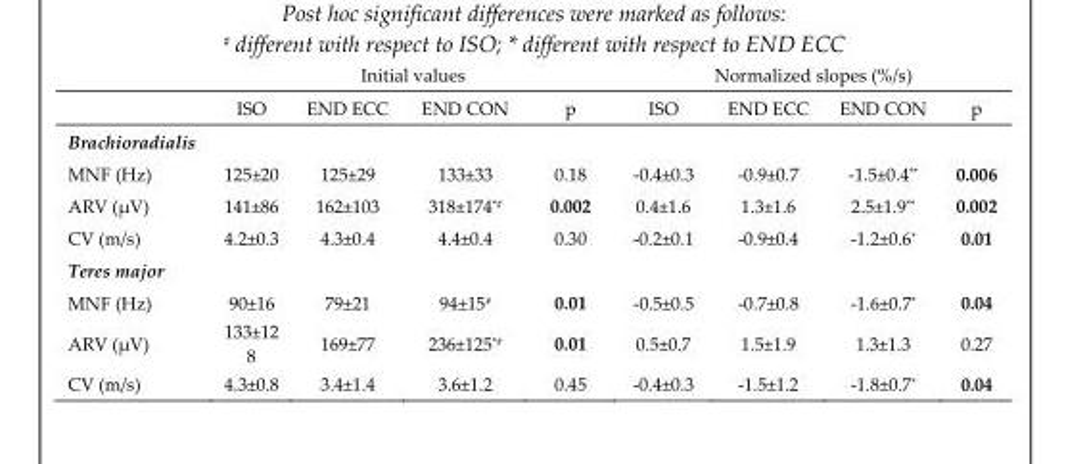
<table><thead><tr><td rowspan="2"></td><td colspan="4">Initial values</td><td colspan="4">Normalized slopes (%/s)</td></tr><tr><td>ISO</td><td>END ECC</td><td>END CON</td><td>p</td><td>ISO</td><td>END ECC</td><td>END CON</td><td>p</td></tr></thead><tbody><tr><td colspan="9">Brachioradialis</td></tr><tr><td>MNF (Hz)</td><td>125±20</td><td>125±29</td><td>133±33</td><td>0.18</td><td>-0.4±0.3</td><td>-0.9±0.7</td><td>-1.5±0.4**</td><td>0.006</td></tr><tr><td>ARV (μV)</td><td>141±86</td><td>162±103</td><td>318±174<sup>*#</sup></td><td>0.002</td><td>0.4±1.6</td><td>1.3±1.6</td><td>2.5±1.9**</td><td>0.002</td></tr><tr><td>CV (m/s)</td><td>4.2±0.3</td><td>4.3±0.4</td><td>4.4±0.4</td><td>0.30</td><td>-0.2±0.1</td><td>-0.9±0.4</td><td>-1.2±0.6*</td><td>0.01</td></tr><tr><td colspan="9">Teres major</td></tr><tr><td>MNF (Hz)</td><td>90±16</td><td>79±21</td><td>94±15<sup>#</sup></td><td>0.01</td><td>-0.5±0.5</td><td>-0.7±0.8</td><td>-1.6±0.7*</td><td>0.04</td></tr><tr><td>ARV (μV)</td><td>133±12 8</td><td>169±77</td><td>236±125<sup>*#</sup></td><td>0.01</td><td>0.5±0.7</td><td>1.5±1.9</td><td>1.3±1.3</td><td>0.27</td></tr><tr><td>CV (m/s)</td><td>4.3±0.8</td><td>3.4±1.4</td><td>3.6±1.2</td><td>0.45</td><td>-0.4±0.3</td><td>-1.5±1.2</td><td>-1.8±0.7*</td><td>0.04</td></tr></tbody></table>